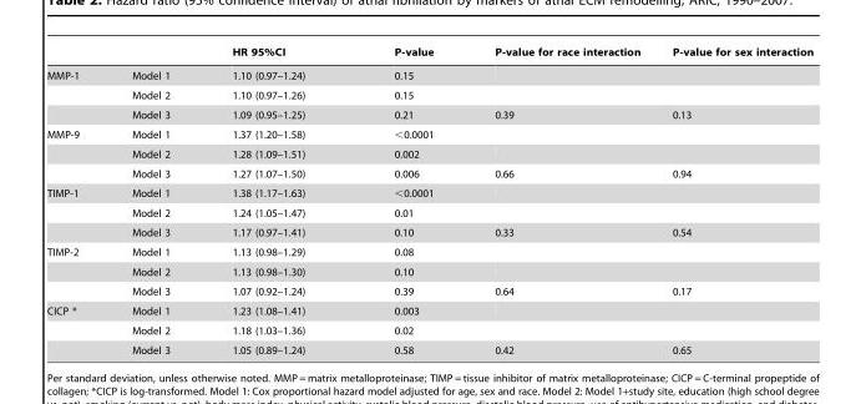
<table><thead><tr><td></td><td></td><td>HR 95%CI</td><td>P-value</td><td>P-value for race interaction</td><td>P-value for sex interaction</td></tr></thead><tbody><tr><td rowspan="3">MMP-1</td><td>Model 1</td><td>1.10 (0.97–1.24)</td><td>0.15</td><td></td><td></td></tr><tr><td>Model 2</td><td>1.10 (0.97–1.26)</td><td>0.15</td><td></td><td></td></tr><tr><td>Model 3</td><td>1.09 (0.95–1.25)</td><td>0.21</td><td>0.39</td><td>0.13</td></tr><tr><td rowspan="3">MMP-9</td><td>Model 1</td><td>1.37 (1.20–1.58)</td><td>&lt;0.0001</td><td></td><td></td></tr><tr><td>Model 2</td><td>1.28 (1.09–1.51)</td><td>0.002</td><td></td><td></td></tr><tr><td>Model 3</td><td>1.27 (1.07–1.50)</td><td>0.006</td><td>0.66</td><td>0.94</td></tr><tr><td rowspan="3">TIMP-1</td><td>Model 1</td><td>1.38 (1.17–1.63)</td><td>&lt;0.0001</td><td></td><td></td></tr><tr><td>Model 2</td><td>1.24 (1.05–1.47)</td><td>0.01</td><td></td><td></td></tr><tr><td>Model 3</td><td>1.17 (0.97–1.41)</td><td>0.10</td><td>0.33</td><td>0.54</td></tr><tr><td rowspan="3">TIMP-2</td><td>Model 1</td><td>1.13 (0.98–1.29)</td><td>0.08</td><td></td><td></td></tr><tr><td>Model 2</td><td>1.13 (0.98–1.30)</td><td>0.10</td><td></td><td></td></tr><tr><td>Model 3</td><td>1.07 (0.92–1.24)</td><td>0.39</td><td>0.64</td><td>0.17</td></tr><tr><td rowspan="3">CICP *</td><td>Model 1</td><td>1.23 (1.08–1.41)</td><td>0.003</td><td></td><td></td></tr><tr><td>Model 2</td><td>1.18 (1.03–1.36)</td><td>0.02</td><td></td><td></td></tr><tr><td>Model 3</td><td>1.05 (0.89–1.24)</td><td>0.58</td><td>0.42</td><td>0.65</td></tr></tbody></table>